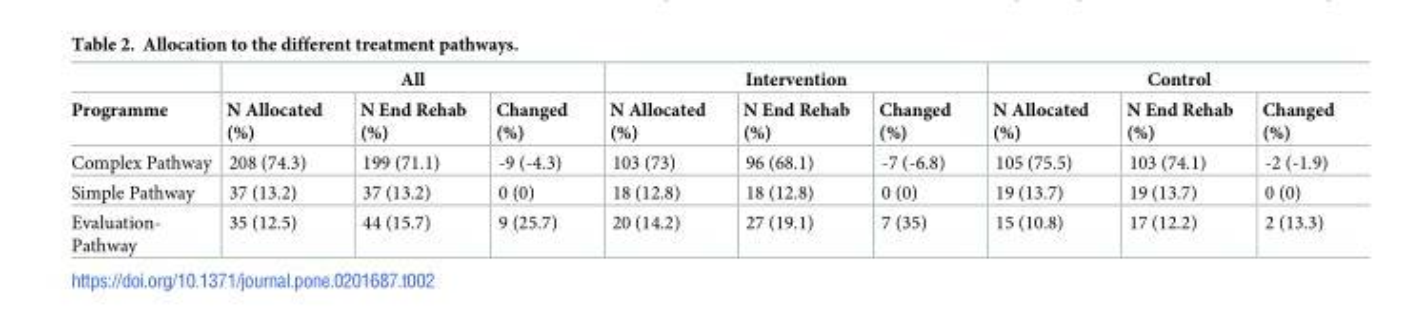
<table><thead><tr><td rowspan="2">Programme</td><td colspan="3">All</td><td colspan="3">Intervention</td><td colspan="3">Control</td></tr><tr><td>N Allocated (%)</td><td>N End Rehab (%)</td><td>Changed (%)</td><td>N Allocated (%)</td><td>N End Rehab (%)</td><td>Changed (%)</td><td>N Allocated (%)</td><td>N End Rehab (%)</td><td>Changed (%)</td></tr></thead><tbody><tr><td>Complex Pathway</td><td>208 (74.3)</td><td>199 (71.1)</td><td>-9 (-4.3)</td><td>103 (73)</td><td>96 (68.1)</td><td>-7 (-6.8)</td><td>105 (75.5)</td><td>103 (74.1)</td><td>-2 (-1.9)</td></tr><tr><td>Simple Pathway</td><td>37 (13.2)</td><td>37 (13.2)</td><td>0 (0)</td><td>18 (12.8)</td><td>18 (12.8)</td><td>0 (0)</td><td>19 (13.7)</td><td>19 (13.7)</td><td>0 (0)</td></tr><tr><td>Evaluation- Pathway</td><td>35 (12.5)</td><td>44 (15.7)</td><td>9 (25.7)</td><td>20 (14.2)</td><td>27 (19.1)</td><td>7 (35)</td><td>15 (10.8)</td><td>17 (12.2)</td><td>2 (13.3)</td></tr></tbody></table>